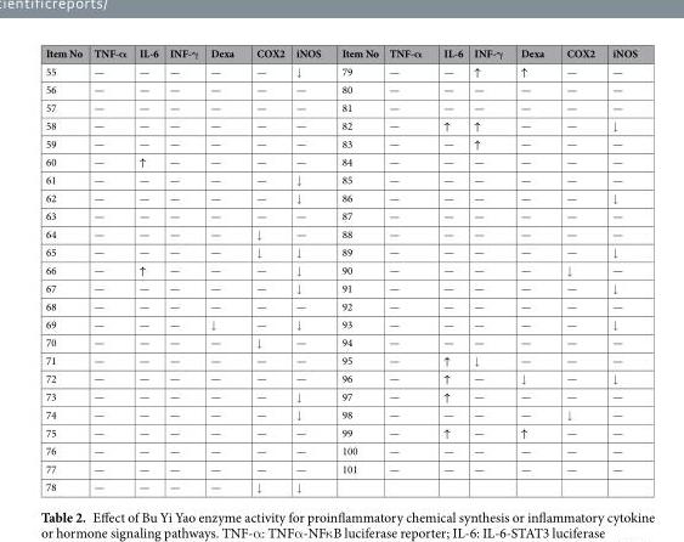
<table><thead><tr><td>Item No</td><td>TNF-α</td><td>IL-6</td><td>INF-γ</td><td>Dexa</td><td>COX2</td><td>iNOS</td><td>Item No</td><td>TNF-α</td><td>IL-6</td><td>INF-γ</td><td>Dexa</td><td>COX2</td><td>iNOS</td></tr></thead><tbody><tr><td>55</td><td>—</td><td>—</td><td>—</td><td>—</td><td>—</td><td>↓</td><td>79</td><td>—</td><td>—</td><td>↑</td><td>↑</td><td>—</td><td>—</td></tr><tr><td>56</td><td>—</td><td>—</td><td>—</td><td>—</td><td>—</td><td>—</td><td>80</td><td>—</td><td>—</td><td>—</td><td>—</td><td>—</td><td>—</td></tr><tr><td>57</td><td>—</td><td>—</td><td>—</td><td>—</td><td>—</td><td>—</td><td>81</td><td>—</td><td>—</td><td>—</td><td>—</td><td>—</td><td>—</td></tr><tr><td>58</td><td>—</td><td>—</td><td>—</td><td>—</td><td>—</td><td>—</td><td>82</td><td>—</td><td>↑</td><td>↑</td><td>—</td><td>—</td><td>↓</td></tr><tr><td>59</td><td>—</td><td>—</td><td>—</td><td>—</td><td>—</td><td>—</td><td>83</td><td>—</td><td>—</td><td>↑</td><td>—</td><td>—</td><td>—</td></tr><tr><td>60</td><td>—</td><td>↑</td><td>—</td><td>—</td><td>—</td><td>—</td><td>84</td><td>—</td><td>—</td><td>—</td><td>—</td><td>—</td><td>—</td></tr><tr><td>61</td><td>—</td><td>—</td><td>—</td><td>—</td><td>—</td><td>↓</td><td>85</td><td>—</td><td>—</td><td>—</td><td>—</td><td>—</td><td>—</td></tr><tr><td>62</td><td>—</td><td>—</td><td>—</td><td>—</td><td>—</td><td>↓</td><td>86</td><td>—</td><td>—</td><td>—</td><td>—</td><td>—</td><td>↓</td></tr><tr><td>63</td><td>—</td><td>—</td><td>—</td><td>—</td><td>—</td><td>—</td><td>87</td><td>—</td><td>—</td><td>—</td><td>—</td><td>—</td><td>—</td></tr><tr><td>64</td><td>—</td><td>—</td><td>—</td><td>—</td><td>↓</td><td>—</td><td>88</td><td>—</td><td>—</td><td>—</td><td>—</td><td>—</td><td>—</td></tr><tr><td>65</td><td>—</td><td>—</td><td>—</td><td>—</td><td>↓</td><td>↓</td><td>89</td><td>—</td><td>—</td><td>—</td><td>—</td><td>—</td><td>↓</td></tr><tr><td>66</td><td>—</td><td>↑</td><td>—</td><td>—</td><td>—</td><td>↓</td><td>90</td><td>—</td><td>—</td><td>—</td><td>—</td><td>↓</td><td>—</td></tr><tr><td>67</td><td>—</td><td>—</td><td>—</td><td>—</td><td>—</td><td>↓</td><td>91</td><td>—</td><td>—</td><td>—</td><td>—</td><td>—</td><td>↓</td></tr><tr><td>68</td><td>—</td><td>—</td><td>—</td><td>—</td><td>—</td><td>—</td><td>92</td><td>—</td><td>—</td><td>—</td><td>—</td><td>—</td><td>—</td></tr><tr><td>69</td><td>—</td><td>—</td><td>—</td><td>↓</td><td>—</td><td>↓</td><td>93</td><td>—</td><td>—</td><td>—</td><td>—</td><td>—</td><td>↓</td></tr><tr><td>70</td><td>—</td><td>—</td><td>—</td><td>—</td><td>↓</td><td>—</td><td>94</td><td>—</td><td>—</td><td>—</td><td>—</td><td>—</td><td>—</td></tr><tr><td>71</td><td>—</td><td>—</td><td>—</td><td>—</td><td>—</td><td>—</td><td>95</td><td>—</td><td>↑</td><td>↓</td><td>—</td><td>—</td><td>—</td></tr><tr><td>72</td><td>—</td><td>—</td><td>—</td><td>—</td><td>—</td><td>—</td><td>96</td><td>—</td><td>↑</td><td>—</td><td>↓</td><td>—</td><td>↓</td></tr><tr><td>73</td><td>—</td><td>—</td><td>—</td><td>—</td><td>—</td><td>↓</td><td>97</td><td>—</td><td>↑</td><td>—</td><td>—</td><td>—</td><td>—</td></tr><tr><td>74</td><td>—</td><td>—</td><td>—</td><td>—</td><td>—</td><td>↓</td><td>98</td><td>—</td><td>—</td><td>—</td><td>—</td><td>↓</td><td>—</td></tr><tr><td>75</td><td>—</td><td>—</td><td>—</td><td>—</td><td>—</td><td>—</td><td>99</td><td>—</td><td>↑</td><td>—</td><td>↑</td><td>—</td><td>—</td></tr><tr><td>76</td><td>—</td><td>—</td><td>—</td><td>—</td><td>—</td><td>—</td><td>100</td><td>—</td><td>—</td><td>—</td><td>—</td><td>—</td><td>—</td></tr><tr><td>77</td><td>—</td><td>—</td><td>—</td><td>—</td><td>—</td><td>—</td><td>101</td><td>—</td><td>—</td><td>—</td><td>—</td><td>—</td><td>—</td></tr><tr><td>78</td><td>—</td><td>—</td><td>—</td><td>—</td><td>↓</td><td>↓</td><td></td><td></td><td></td><td></td><td></td><td></td><td></td></tr></tbody></table>